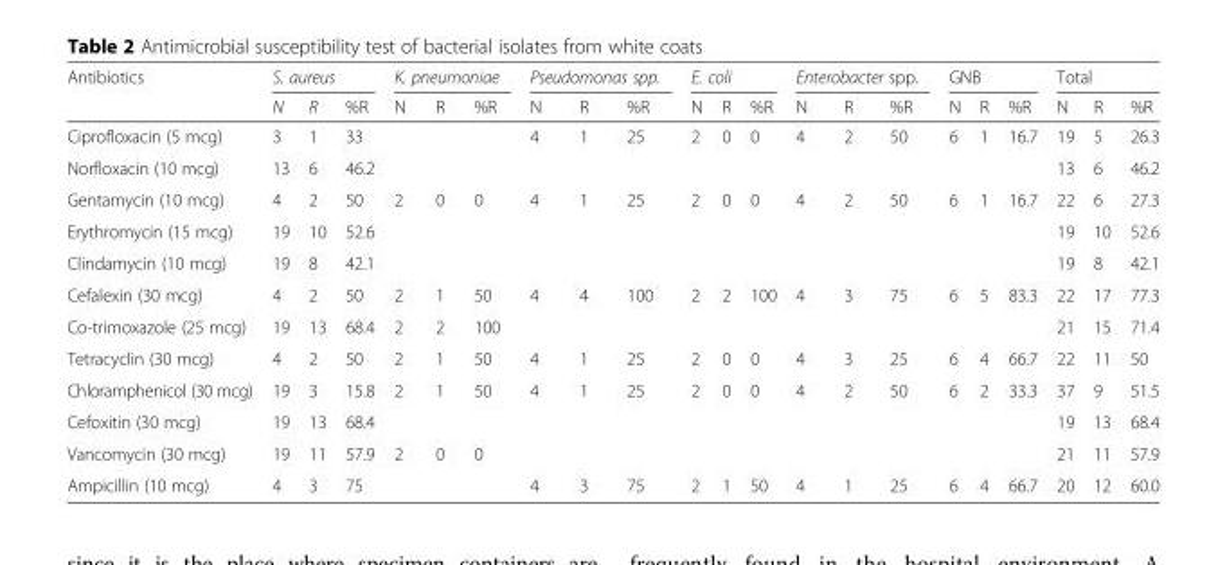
<table><thead><tr><td rowspan="2">Antibiotics</td><td colspan="3">S. aureus</td><td colspan="3">K. pneumoniae</td><td colspan="3">Pseudomonas spp.</td><td colspan="3">E. coli</td><td colspan="3">Enterobacter spp.</td><td colspan="3">GNB</td><td colspan="3">Total</td></tr><tr><td>N</td><td>R</td><td>%R</td><td>N</td><td>R</td><td>%R</td><td>N</td><td>R</td><td>%R</td><td>N</td><td>R</td><td>%R</td><td>N</td><td>R</td><td>%R</td><td>N</td><td>R</td><td>%R</td><td>N</td><td>R</td><td>%R</td></tr></thead><tbody><tr><td>Ciprofloxacin (5 mcg)</td><td>3</td><td>1</td><td>33</td><td></td><td></td><td></td><td>4</td><td>1</td><td>25</td><td>2</td><td>0</td><td>0</td><td>4</td><td>2</td><td>50</td><td>6</td><td>1</td><td>16.7</td><td>19</td><td>5</td><td>26.3</td></tr><tr><td>Norfloxacin (10 mcg)</td><td>13</td><td>6</td><td>46.2</td><td></td><td></td><td></td><td></td><td></td><td></td><td></td><td></td><td></td><td></td><td></td><td></td><td></td><td></td><td></td><td>13</td><td>6</td><td>46.2</td></tr><tr><td>Gentamycin (10 mcg)</td><td>4</td><td>2</td><td>50</td><td>2</td><td>0</td><td>0</td><td>4</td><td>1</td><td>25</td><td>2</td><td>0</td><td>0</td><td>4</td><td>2</td><td>50</td><td>6</td><td>1</td><td>16.7</td><td>22</td><td>6</td><td>27.3</td></tr><tr><td>Erythromycin (15 mcg)</td><td>19</td><td>10</td><td>52.6</td><td></td><td></td><td></td><td></td><td></td><td></td><td></td><td></td><td></td><td></td><td></td><td></td><td></td><td></td><td></td><td>19</td><td>10</td><td>52.6</td></tr><tr><td>Clindamycin (10 mcg)</td><td>19</td><td>8</td><td>42.1</td><td></td><td></td><td></td><td></td><td></td><td></td><td></td><td></td><td></td><td></td><td></td><td></td><td></td><td></td><td></td><td>19</td><td>8</td><td>42.1</td></tr><tr><td>Cefalexin (30 mcg)</td><td>4</td><td>2</td><td>50</td><td>2</td><td>1</td><td>50</td><td>4</td><td>4</td><td>100</td><td>2</td><td>2</td><td>100</td><td>4</td><td>3</td><td>75</td><td>6</td><td>5</td><td>83.3</td><td>22</td><td>17</td><td>77.3</td></tr><tr><td>Co-trimoxazole (25 mcg)</td><td>19</td><td>13</td><td>68.4</td><td>2</td><td>2</td><td>100</td><td></td><td></td><td></td><td></td><td></td><td></td><td></td><td></td><td></td><td></td><td></td><td></td><td>21</td><td>15</td><td>71.4</td></tr><tr><td>Tetracyclin (30 mcg)</td><td>4</td><td>2</td><td>50</td><td>2</td><td>1</td><td>50</td><td>4</td><td>1</td><td>25</td><td>2</td><td>0</td><td>0</td><td>4</td><td>3</td><td>25</td><td>6</td><td>4</td><td>66.7</td><td>22</td><td>11</td><td>50</td></tr><tr><td>Chloramphenicol (30 mcg)</td><td>19</td><td>3</td><td>15.8</td><td>2</td><td>1</td><td>50</td><td>4</td><td>1</td><td>25</td><td>2</td><td>0</td><td>0</td><td>4</td><td>2</td><td>50</td><td>6</td><td>2</td><td>33.3</td><td>37</td><td>9</td><td>51.5</td></tr><tr><td>Cefoxitin (30 mcg)</td><td>19</td><td>13</td><td>68.4</td><td></td><td></td><td></td><td></td><td></td><td></td><td></td><td></td><td></td><td></td><td></td><td></td><td></td><td></td><td></td><td>19</td><td>13</td><td>68.4</td></tr><tr><td>Vancomycin (30 mcg)</td><td>19</td><td>11</td><td>57.9</td><td>2</td><td>0</td><td>0</td><td></td><td></td><td></td><td></td><td></td><td></td><td></td><td></td><td></td><td></td><td></td><td></td><td>21</td><td>11</td><td>57.9</td></tr><tr><td>Ampicillin (10 mcg)</td><td>4</td><td>3</td><td>75</td><td></td><td></td><td></td><td>4</td><td>3</td><td>75</td><td>2</td><td>1</td><td>50</td><td>4</td><td>1</td><td>25</td><td>6</td><td>4</td><td>66.7</td><td>20</td><td>12</td><td>60.0</td></tr></tbody></table>